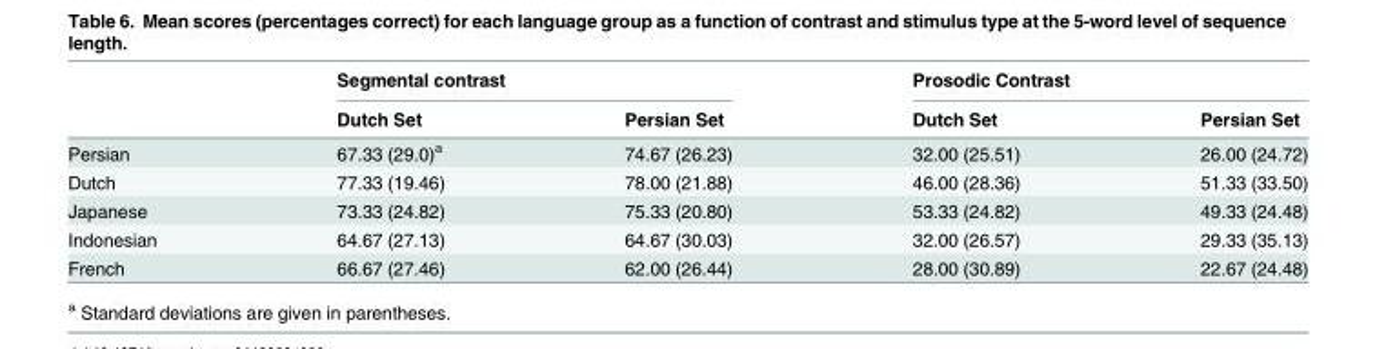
<table><thead><tr><td rowspan="2"></td><td colspan="2">Segmental contrast</td><td colspan="2">Prosodic Contrast</td></tr><tr><td>Dutch Set</td><td>Persian Set</td><td>Dutch Set</td><td>Persian Set</td></tr></thead><tbody><tr><td>Persian</td><td>67.33 (29.0)<sup>a</sup></td><td>74.67 (26.23)</td><td>32.00 (25.51)</td><td>26.00 (24.72)</td></tr><tr><td>Dutch</td><td>77.33 (19.46)</td><td>78.00 (21.88)</td><td>46.00 (28.36)</td><td>51.33 (33.50)</td></tr><tr><td>Japanese</td><td>73.33 (24.82)</td><td>75.33 (20.80)</td><td>53.33 (24.82)</td><td>49.33 (24.48)</td></tr><tr><td>Indonesian</td><td>64.67 (27.13)</td><td>64.67 (30.03)</td><td>32.00 (26.57)</td><td>29.33 (35.13)</td></tr><tr><td>French</td><td>66.67 (27.46)</td><td>62.00 (26.44)</td><td>28.00 (30.89)</td><td>22.67 (24.48)</td></tr></tbody></table>